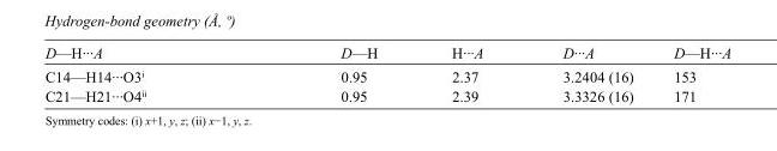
<table><tbody><tr><td>D—H···A</td><td>D—H</td><td>H···A</td><td>D···A</td><td>D—H···A</td></tr><tr><td>C14—H14···O3<sup>i</sup></td><td>0.95</td><td>2.37</td><td>3.2404 (16)</td><td>153</td></tr><tr><td>C21—H21···O4<sup>ii</sup></td><td>0.95</td><td>2.39</td><td>3.3326 (16)</td><td>171</td></tr></tbody></table>